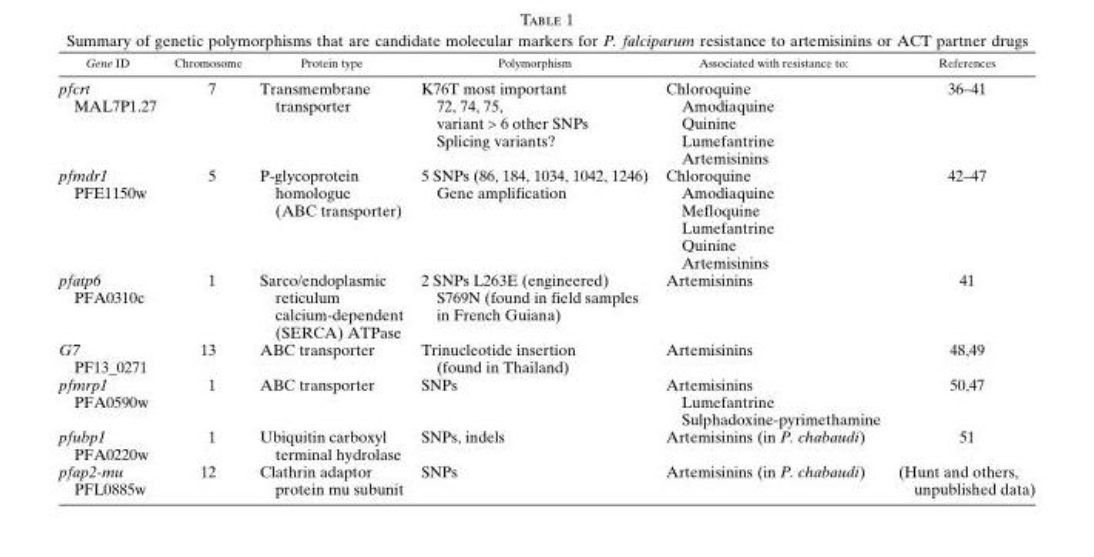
<table><thead><tr><td>Gene ID</td><td>Chromosome</td><td>Protein type</td><td>Polymorphism</td><td>Associated with resistance to:</td><td>References</td></tr></thead><tbody><tr><td>pfcrt MAL7P1.27</td><td>7</td><td>Transmembrane transporter</td><td>K76T most important 72, 74, 75, variant &gt; 6 other SNPs Splicing variants?</td><td>Chloroquine Amodiaquine Quinine Lumefantrine Artemisinins</td><td>36–41</td></tr><tr><td>pfmdr1 PFE1150w</td><td>5</td><td>P-glycoprotein homologue (ABC transporter)</td><td>5 SNPs (86, 184, 1034, 1042, 1246) Gene amplification</td><td>Chloroquine Amodiaquine Mefloquine Lumefantrine Quinine Artemisinins</td><td>42–47</td></tr><tr><td>pfatp6 PFA0310c</td><td>1</td><td>Sarco/endoplasmic reticulum calcium-dependent (SERCA) ATPase</td><td>2 SNPs L263E (engineered) S769N (found in field samples in French Guiana)</td><td>Artemisinins</td><td>41</td></tr><tr><td>G7 PF13_0271</td><td>13</td><td>ABC transporter</td><td>Trinucleotide insertion (found in Thailand)</td><td>Artemisinins</td><td>48,49</td></tr><tr><td>pfmrp1 PFA0590w</td><td>1</td><td>ABC transporter</td><td>SNPs</td><td>Artemisinins Lumefantrine Sulphadoxine-pyrimethamine</td><td>50,47</td></tr><tr><td>pfubp1 PFA0220w</td><td>1</td><td>Ubiquitin carboxyl terminal hydrolase</td><td>SNPs, indels</td><td>Artemisinins (in P. chabaudi)</td><td>51</td></tr><tr><td>pfap2-mu PFL0885w</td><td>12</td><td>Clathrin adaptor protein mu subunit</td><td>SNPs</td><td>Artemisinins (in P. chabaudi)</td><td>(Hunt and others, unpublished data)</td></tr></tbody></table>